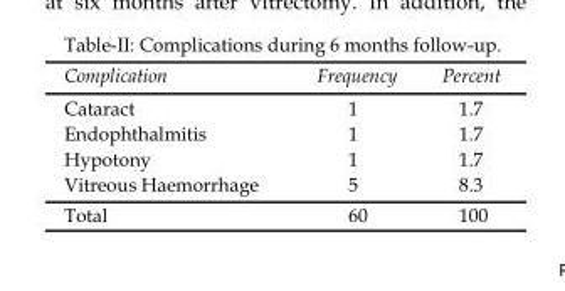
<table><thead><tr><td>Complication</td><td>Frequency</td><td>Percent</td></tr></thead><tbody><tr><td>Cataract</td><td>1</td><td>1.7</td></tr><tr><td>Endophthalmitis</td><td>1</td><td>1.7</td></tr><tr><td>Hypotony</td><td>1</td><td>1.7</td></tr><tr><td>Vitreous Haemorrhage</td><td>5</td><td>8.3</td></tr><tr><td>Total</td><td>60</td><td>100</td></tr></tbody></table>